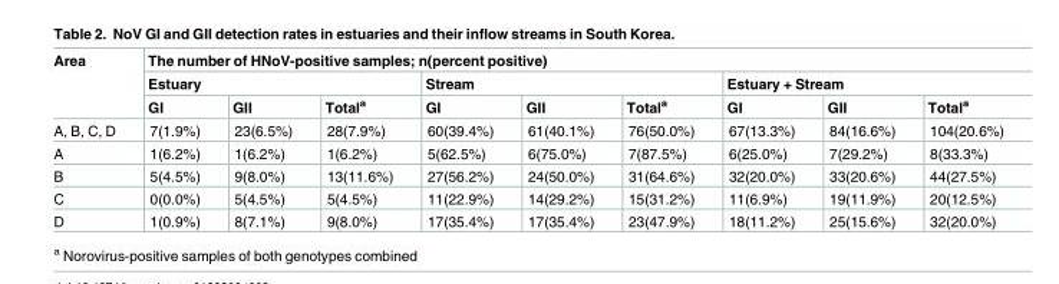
<table><thead><tr><td rowspan="3">Area</td><td colspan="9">The number of HNoV-positive samples; n(percent positive)</td></tr><tr><td colspan="3">Estuary</td><td colspan="3">Stream</td><td colspan="3">Estuary + Stream</td></tr><tr><td>GI</td><td>GII</td><td>Total<sup>a</sup></td><td>GI</td><td>GII</td><td>Total<sup>a</sup></td><td>GI</td><td>GII</td><td>Total<sup>a</sup></td></tr></thead><tbody><tr><td>A, B, C, D</td><td>7(1.9%)</td><td>23(6.5%)</td><td>28(7.9%)</td><td>60(39.4%)</td><td>61(40.1%)</td><td>76(50.0%)</td><td>67(13.3%)</td><td>84(16.6%)</td><td>104(20.6%)</td></tr><tr><td>A</td><td>1(6.2%)</td><td>1(6.2%)</td><td>1(6.2%)</td><td>5(62.5%)</td><td>6(75.0%)</td><td>7(87.5%)</td><td>6(25.0%)</td><td>7(29.2%)</td><td>8(33.3%)</td></tr><tr><td>B</td><td>5(4.5%)</td><td>9(8.0%)</td><td>13(11.6%)</td><td>27(56.2%)</td><td>24(50.0%)</td><td>31(64.6%)</td><td>32(20.0%)</td><td>33(20.6%)</td><td>44(27.5%)</td></tr><tr><td>C</td><td>0(0.0%)</td><td>5(4.5%)</td><td>5(4.5%)</td><td>11(22.9%)</td><td>14(29.2%)</td><td>15(31.2%)</td><td>11(6.9%)</td><td>19(11.9%)</td><td>20(12.5%)</td></tr><tr><td>D</td><td>1(0.9%)</td><td>8(7.1%)</td><td>9(8.0%)</td><td>17(35.4%)</td><td>17(35.4%)</td><td>23(47.9%)</td><td>18(11.2%)</td><td>25(15.6%)</td><td>32(20.0%)</td></tr></tbody></table>